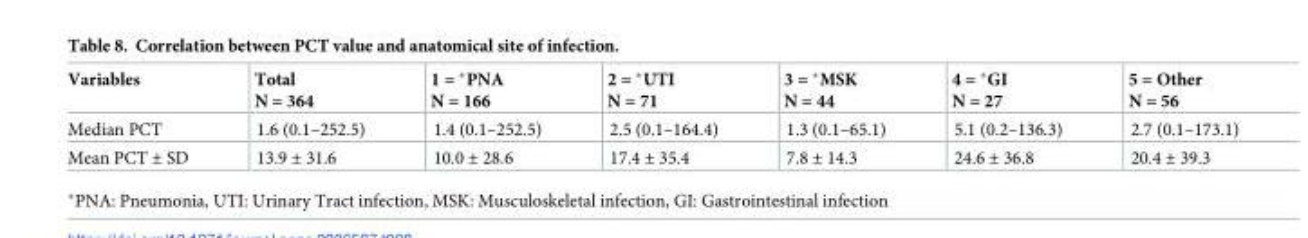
<table><thead><tr><td>Variables</td><td>Total N = 364</td><td>1 = *PNA N = 166</td><td>2 = *UTI N = 71</td><td>3 = *MSK N = 44</td><td>4 = *GI N = 27</td><td>5 = Other N = 56</td></tr></thead><tbody><tr><td>Median PCT</td><td>1.6 (0.1–252.5)</td><td>1.4 (0.1–252.5)</td><td>2.5 (0.1–164.4)</td><td>1.3 (0.1–65.1)</td><td>5.1 (0.2–136.3)</td><td>2.7 (0.1–173.1)</td></tr><tr><td>Mean PCT ± SD</td><td>13.9 ± 31.6</td><td>10.0 ± 28.6</td><td>17.4 ± 35.4</td><td>7.8 ± 14.3</td><td>24.6 ± 36.8</td><td>20.4 ± 39.3</td></tr></tbody></table>